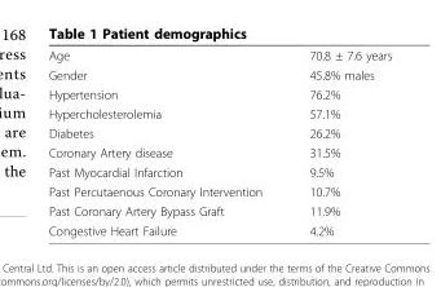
<table><tbody><tr><td>Age</td><td>70.8 ± 7.6 years</td></tr><tr><td>Gender</td><td>45.8% males</td></tr><tr><td>Hypertension</td><td>76.2%</td></tr><tr><td>Hypercholesterolemia</td><td>57.1%</td></tr><tr><td>Diabetes</td><td>26.2%</td></tr><tr><td>Coronary Artery disease</td><td>31.5%</td></tr><tr><td>Past Myocardial Infarction</td><td>9.5%</td></tr><tr><td>Past Percutaenous Coronary Intervention</td><td>10.7%</td></tr><tr><td>Past Coronary Artery Bypass Graft</td><td>11.9%</td></tr><tr><td>Congestive Heart Failure</td><td>4.2%</td></tr></tbody></table>